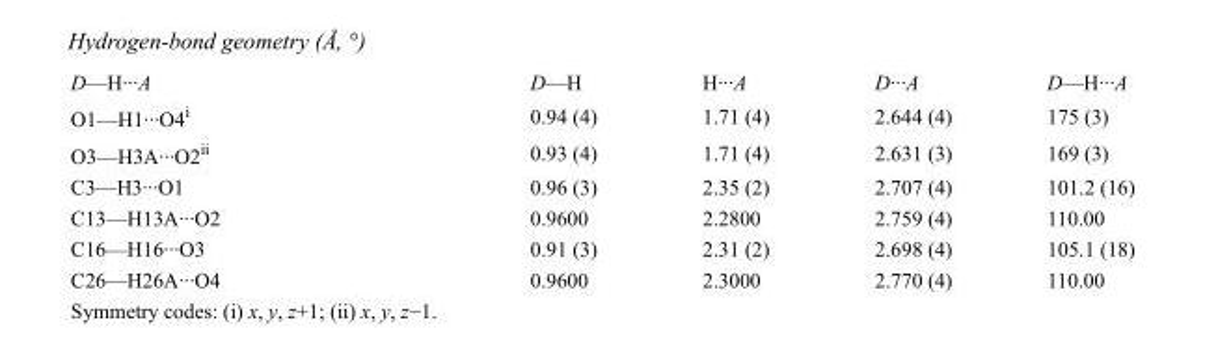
<table><tbody><tr><td>D—H···A</td><td>D—H</td><td>H···A</td><td>D···A</td><td>D—H···A</td></tr><tr><td>O1—H1···O4<sup>i</sup></td><td>0.94 (4)</td><td>1.71 (4)</td><td>2.644 (4)</td><td>175 (3)</td></tr><tr><td>O3—H3A···O2<sup>ii</sup></td><td>0.93 (4)</td><td>1.71 (4)</td><td>2.631 (3)</td><td>169 (3)</td></tr><tr><td>C3—H3···O1</td><td>0.96 (3)</td><td>2.35 (2)</td><td>2.707 (4)</td><td>101.2 (16)</td></tr><tr><td>C13—H13A···O2</td><td>0.9600</td><td>2.2800</td><td>2.759 (4)</td><td>110.00</td></tr><tr><td>C16—H16···O3</td><td>0.91 (3)</td><td>2.31 (2)</td><td>2.698 (4)</td><td>105.1 (18)</td></tr><tr><td>C26—H26A···O4</td><td>0.9600</td><td>2.3000</td><td>2.770 (4)</td><td>110.00</td></tr></tbody></table>